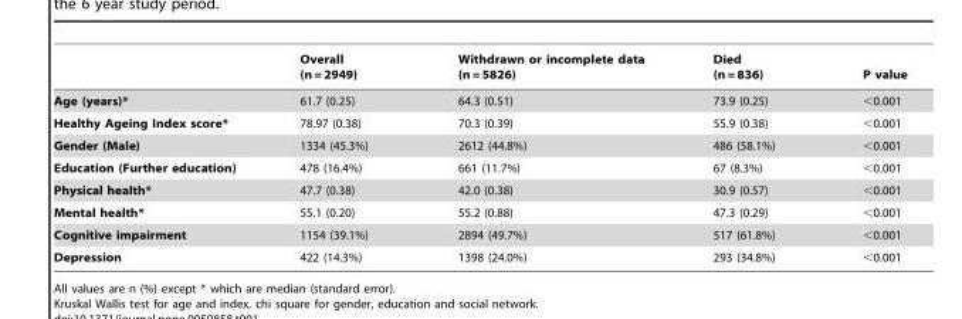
<table><thead><tr><td></td><td>Overall (n = 2949)</td><td>Withdrawn or incomplete data (n = 5826)</td><td>Died (n = 836)</td><td>P value</td></tr></thead><tbody><tr><td>Age (years)*</td><td>61.7 (0.25)</td><td>64.3 (0.51)</td><td>73.9 (0.25)</td><td>&lt;0.001</td></tr><tr><td>Healthy Ageing Index score*</td><td>78.97 (0.38)</td><td>70.3 (0.39)</td><td>55.9 (0.38)</td><td>&lt;0.001</td></tr><tr><td>Gender (Male)</td><td>1334 (45.3%)</td><td>2612 (44.8%)</td><td>486 (58.1%)</td><td>&lt;0.001</td></tr><tr><td>Education (Further education)</td><td>478 (16.4%)</td><td>661 (11.7%)</td><td>67 (8.3%)</td><td>&lt;0.001</td></tr><tr><td>Physical health*</td><td>47.7 (0.38)</td><td>42.0 (0.38)</td><td>30.9 (0.57)</td><td>&lt;0.001</td></tr><tr><td>Mental health*</td><td>55.1 (0.20)</td><td>55.2 (0.88)</td><td>47.3 (0.29)</td><td>&lt;0.001</td></tr><tr><td>Cognitive impairment</td><td>1154 (39.1%)</td><td>2894 (49.7%)</td><td>517 (61.8%)</td><td>&lt;0.001</td></tr><tr><td>Depression</td><td>422 (14.3%)</td><td>1398 (24.0%)</td><td>293 (34.8%)</td><td>&lt;0.001</td></tr></tbody></table>